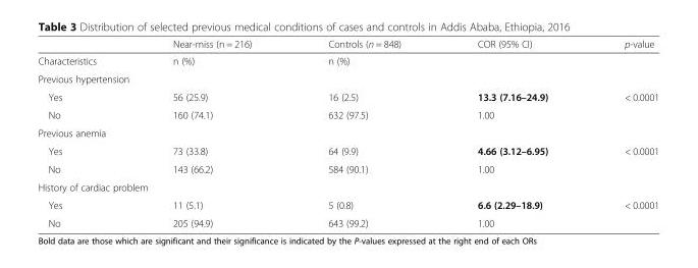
<table><thead><tr><td></td><td>Near-miss (n = 216)</td><td>Controls (n = 848)</td><td>COR (95% CI)</td><td>p-value</td></tr></thead><tbody><tr><td>Characteristics</td><td>n (%)</td><td>n (%)</td><td></td><td></td></tr><tr><td colspan="5">Previous hypertension</td></tr><tr><td>Yes</td><td>56 (25.9)</td><td>16 (2.5)</td><td>13.3 (7.16–24.9)</td><td>&lt; 0.0001</td></tr><tr><td>No</td><td>160 (74.1)</td><td>632 (97.5)</td><td>1.00</td><td></td></tr><tr><td colspan="5">Previous anemia</td></tr><tr><td>Yes</td><td>73 (33.8)</td><td>64 (9.9)</td><td>4.66 (3.12–6.95)</td><td>&lt; 0.0001</td></tr><tr><td>No</td><td>143 (66.2)</td><td>584 (90.1)</td><td>1.00</td><td></td></tr><tr><td colspan="5">History of cardiac problem</td></tr><tr><td>Yes</td><td>11 (5.1)</td><td>5 (0.8)</td><td>6.6 (2.29–18.9)</td><td>&lt; 0.0001</td></tr><tr><td>No</td><td>205 (94.9)</td><td>643 (99.2)</td><td>1.00</td><td></td></tr></tbody></table>